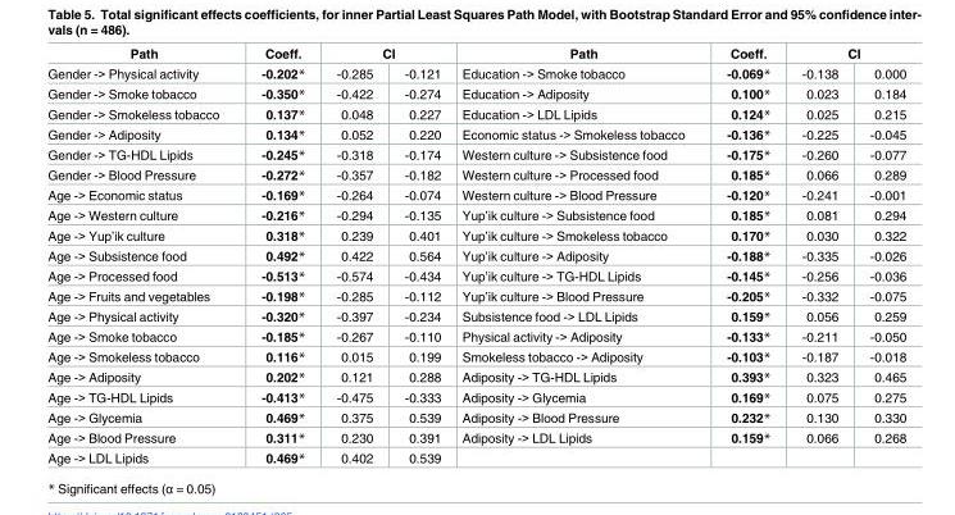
<table><thead><tr><td rowspan="2">Path Gender -&gt; Physical activity</td><td rowspan="2">Coeff. -0.202*</td><td colspan="2">CI</td><td rowspan="2">Path Education -&gt; Smoke tobacco</td><td rowspan="2">Coeff. -0.069*</td><td colspan="2">CI</td></tr><tr><td>-0.285</td><td>-0.121</td><td>-0.138</td><td>0.000</td></tr></thead><tbody><tr><td>Gender -&gt; Smoke tobacco</td><td>-0.350*</td><td>-0.422</td><td>-0.274</td><td>Education -&gt; Adiposity</td><td>0.100*</td><td>0.023</td><td>0.184</td></tr><tr><td>Gender -&gt; Smokeless tobacco</td><td>0.137*</td><td>0.048</td><td>0.227</td><td>Education -&gt; LDL Lipids</td><td>0.124*</td><td>0.025</td><td>0.215</td></tr><tr><td>Gender -&gt; Adiposity</td><td>0.134*</td><td>0.052</td><td>0.220</td><td>Economic status -&gt; Smokeless tobacco</td><td>-0.136*</td><td>-0.225</td><td>-0.045</td></tr><tr><td>Gender -&gt; TG-HDL Lipids</td><td>-0.245*</td><td>-0.318</td><td>-0.174</td><td>Western culture -&gt; Subsistence food</td><td>-0.175*</td><td>-0.260</td><td>-0.077</td></tr><tr><td>Gender -&gt; Blood Pressure</td><td>-0.272*</td><td>-0.357</td><td>-0.182</td><td>Western culture -&gt; Processed food</td><td>0.185*</td><td>0.066</td><td>0.289</td></tr><tr><td>Age -&gt; Economic status</td><td>-0.169*</td><td>-0.264</td><td>-0.074</td><td>Western culture -&gt; Blood Pressure</td><td>-0.120*</td><td>-0.241</td><td>-0.001</td></tr><tr><td>Age -&gt; Western culture</td><td>-0.216*</td><td>-0.294</td><td>-0.135</td><td>Yup’ik culture -&gt; Subsistence food</td><td>0.185*</td><td>0.081</td><td>0.294</td></tr><tr><td>Age -&gt; Yup’ik culture</td><td>0.318*</td><td>0.239</td><td>0.401</td><td>Yup’ik culture -&gt; Smokeless tobacco</td><td>0.170*</td><td>0.030</td><td>0.322</td></tr><tr><td>Age -&gt; Subsistence food</td><td>0.492*</td><td>0.422</td><td>0.564</td><td>Yup’ik culture -&gt; Adiposity</td><td>-0.188*</td><td>-0.335</td><td>-0.026</td></tr><tr><td>Age -&gt; Processed food</td><td>-0.513*</td><td>-0.574</td><td>-0.434</td><td>Yup’ik culture -&gt; TG-HDL Lipids</td><td>-0.145*</td><td>-0.256</td><td>-0.036</td></tr><tr><td>Age -&gt; Fruits and vegetables</td><td>-0.198*</td><td>-0.285</td><td>-0.112</td><td>Yup’ik culture -&gt; Blood Pressure</td><td>-0.205*</td><td>-0.332</td><td>-0.075</td></tr><tr><td>Age -&gt; Physical activity</td><td>-0.320*</td><td>-0.397</td><td>-0.234</td><td>Subsistence food -&gt; LDL Lipids</td><td>0.159*</td><td>0.056</td><td>0.259</td></tr><tr><td>Age -&gt; Smoke tobacco</td><td>-0.185*</td><td>-0.267</td><td>-0.110</td><td>Physical activity -&gt; Adiposity</td><td>-0.133*</td><td>-0.211</td><td>-0.050</td></tr><tr><td>Age -&gt; Smokeless tobacco</td><td>0.116*</td><td>0.015</td><td>0.199</td><td>Smokeless tobacco -&gt; Adiposity</td><td>-0.103*</td><td>-0.187</td><td>-0.018</td></tr><tr><td>Age -&gt; Adiposity</td><td>0.202*</td><td>0.121</td><td>0.288</td><td>Adiposity -&gt; TG-HDL Lipids</td><td>0.393*</td><td>0.323</td><td>0.465</td></tr><tr><td>Age -&gt; TG-HDL Lipids</td><td>-0.413*</td><td>-0.475</td><td>-0.333</td><td>Adiposity -&gt; Glycemia</td><td>0.169*</td><td>0.075</td><td>0.275</td></tr><tr><td>Age -&gt; Glycemia</td><td>0.469*</td><td>0.375</td><td>0.539</td><td>Adiposity -&gt; Blood Pressure</td><td>0.232*</td><td>0.130</td><td>0.330</td></tr><tr><td>Age -&gt; Blood Pressure</td><td>0.311*</td><td>0.230</td><td>0.391</td><td>Adiposity -&gt; LDL Lipids</td><td>0.159*</td><td>0.066</td><td>0.268</td></tr><tr><td>Age -&gt; LDL Lipids</td><td>0.469*</td><td>0.402</td><td>0.539</td><td></td><td></td><td></td><td></td></tr></tbody></table>